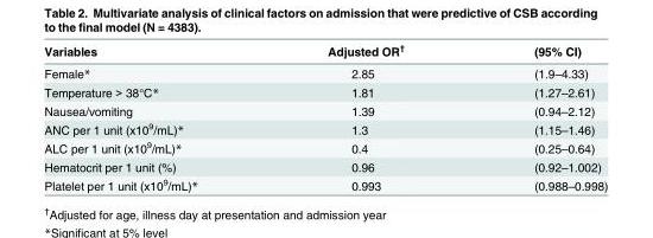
<table><thead><tr><td>Variables</td><td>Adjusted OR<sup>†</sup></td><td>(95% CI)</td></tr></thead><tbody><tr><td>Female*</td><td>2.85</td><td>(1.9–4.33)</td></tr><tr><td>Temperature &gt; 38°C*</td><td>1.81</td><td>(1.27–2.61)</td></tr><tr><td>Nausea/vomiting</td><td>1.39</td><td>(0.94–2.12)</td></tr><tr><td>ANC per 1 unit (x10<sup>9</sup>/mL)*</td><td>1.3</td><td>(1.15–1.46)</td></tr><tr><td>ALC per 1 unit (x10<sup>9</sup>/mL)*</td><td>0.4</td><td>(0.25–0.64)</td></tr><tr><td>Hematocrit per 1 unit (%)</td><td>0.96</td><td>(0.92–1.002)</td></tr><tr><td>Platelet per 1 unit (x10<sup>9</sup>/mL)*</td><td>0.993</td><td>(0.988–0.998)</td></tr></tbody></table>